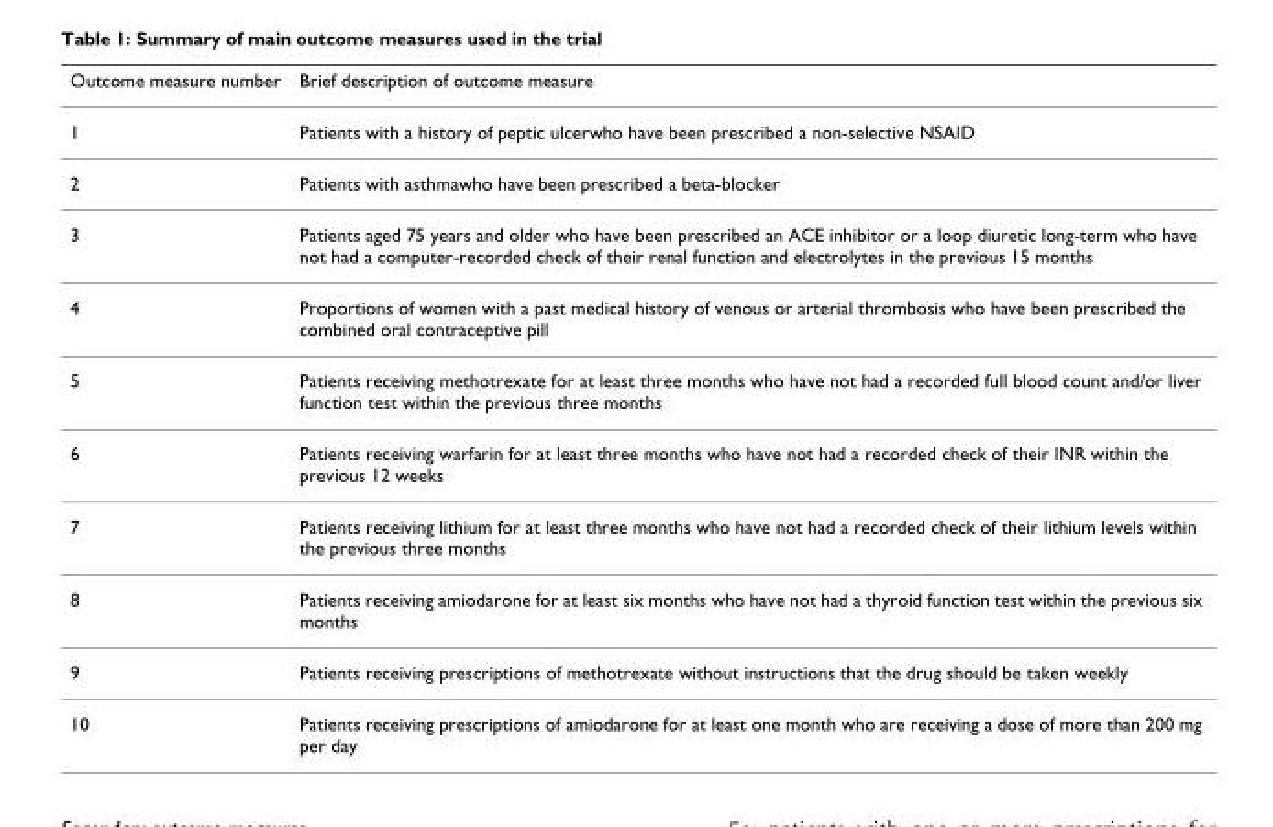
<table><thead><tr><td>Outcome measure number</td><td>Brief description of outcome measure</td></tr></thead><tbody><tr><td>1</td><td>Patients with a history of peptic ulcerwho have been prescribed a non-selective NSAID</td></tr><tr><td>2</td><td>Patients with asthmawho have been prescribed a beta-blocker</td></tr><tr><td>3</td><td>Patients aged 75 years and older who have been prescribed an ACE inhibitor or a loop diuretic long-term who have not had a computer-recorded check of their renal function and electrolytes in the previous 15 months</td></tr><tr><td>4</td><td>Proportions of women with a past medical history of venous or arterial thrombosis who have been prescribed the combined oral contraceptive pill</td></tr><tr><td>5</td><td>Patients receiving methotrexate for at least three months who have not had a recorded full blood count and/or liver function test within the previous three months</td></tr><tr><td>6</td><td>Patients receiving warfarin for at least three months who have not had a recorded check of their INR within the previous 12 weeks</td></tr><tr><td>7</td><td>Patients receiving lithium for at least three months who have not had a recorded check of their lithium levels within the previous three months</td></tr><tr><td>8</td><td>Patients receiving amiodarone for at least six months who have not had a thyroid function test within the previous six months</td></tr><tr><td>9</td><td>Patients receiving prescriptions of methotrexate without instructions that the drug should be taken weekly</td></tr><tr><td>10</td><td>Patients receiving prescriptions of amiodarone for at least one month who are receiving a dose of more than 200 mg per day</td></tr></tbody></table>